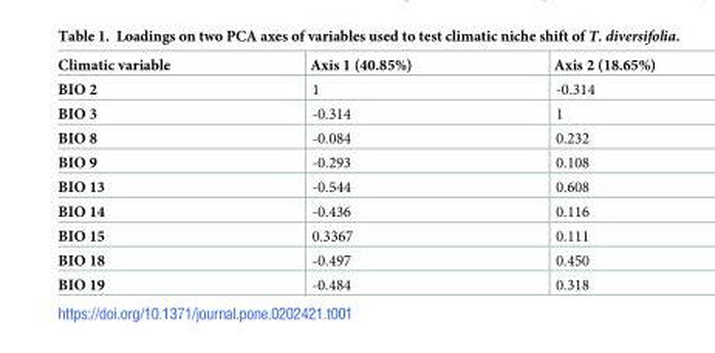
<table><thead><tr><td>Climatic variable</td><td>Axis 1 (40.85%)</td><td>Axis 2 (18.65%)</td></tr></thead><tbody><tr><td>BIO 2</td><td>1</td><td>-0.314</td></tr><tr><td>BIO 3</td><td>-0.314</td><td>1</td></tr><tr><td>BIO 8</td><td>-0.084</td><td>0.232</td></tr><tr><td>BIO 9</td><td>-0.293</td><td>0.108</td></tr><tr><td>BIO 13</td><td>-0.544</td><td>0.608</td></tr><tr><td>BIO 14</td><td>-0.436</td><td>0.116</td></tr><tr><td>BIO 15</td><td>0.3367</td><td>0.111</td></tr><tr><td>BIO 18</td><td>-0.497</td><td>0.450</td></tr><tr><td>BIO 19</td><td>-0.484</td><td>0.318</td></tr></tbody></table>